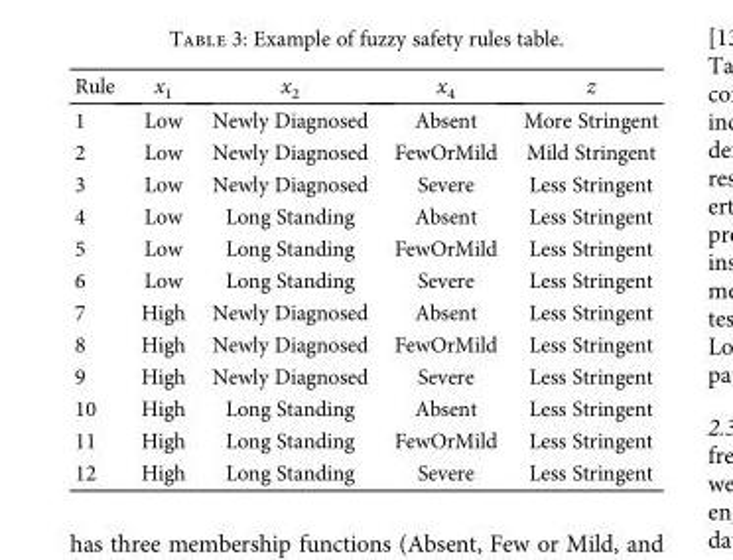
<table><thead><tr><td>Rule</td><td>x<sub>1</sub></td><td>x<sub>2</sub></td><td>x<sub>4</sub></td><td>z</td></tr></thead><tbody><tr><td>1</td><td>Low</td><td>Newly Diagnosed</td><td>Absent</td><td>More Stringent</td></tr><tr><td>2</td><td>Low</td><td>Newly Diagnosed</td><td>FewOrMild</td><td>Mild Stringent</td></tr><tr><td>3</td><td>Low</td><td>Newly Diagnosed</td><td>Severe</td><td>Less Stringent</td></tr><tr><td>4</td><td>Low</td><td>Long Standing</td><td>Absent</td><td>Less Stringent</td></tr><tr><td>5</td><td>Low</td><td>Long Standing</td><td>FewOrMild</td><td>Less Stringent</td></tr><tr><td>6</td><td>Low</td><td>Long Standing</td><td>Severe</td><td>Less Stringent</td></tr><tr><td>7</td><td>High</td><td>Newly Diagnosed</td><td>Absent</td><td>Less Stringent</td></tr><tr><td>8</td><td>High</td><td>Newly Diagnosed</td><td>FewOrMild</td><td>Less Stringent</td></tr><tr><td>9</td><td>High</td><td>Newly Diagnosed</td><td>Severe</td><td>Less Stringent</td></tr><tr><td>10</td><td>High</td><td>Long Standing</td><td>Absent</td><td>Less Stringent</td></tr><tr><td>11</td><td>High</td><td>Long Standing</td><td>FewOrMild</td><td>Less Stringent</td></tr><tr><td>12</td><td>High</td><td>Long Standing</td><td>Severe</td><td>Less Stringent</td></tr></tbody></table>